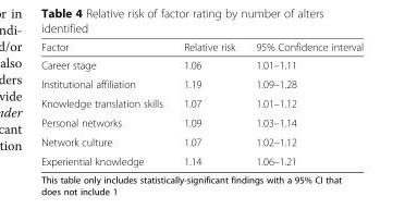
<table><thead><tr><td>Factor</td><td>Relative risk</td><td>95% Confidence interval</td></tr></thead><tbody><tr><td>Career stage</td><td>1.06</td><td>1.01–1.11</td></tr><tr><td>Institutional affiliation</td><td>1.19</td><td>1.09–1.28</td></tr><tr><td>Knowledge translation skills</td><td>1.07</td><td>1.01–1.12</td></tr><tr><td>Personal networks</td><td>1.09</td><td>1.03–1.14</td></tr><tr><td>Network culture</td><td>1.07</td><td>1.02–1.12</td></tr><tr><td>Experiential knowledge</td><td>1.14</td><td>1.06–1.21</td></tr></tbody></table>